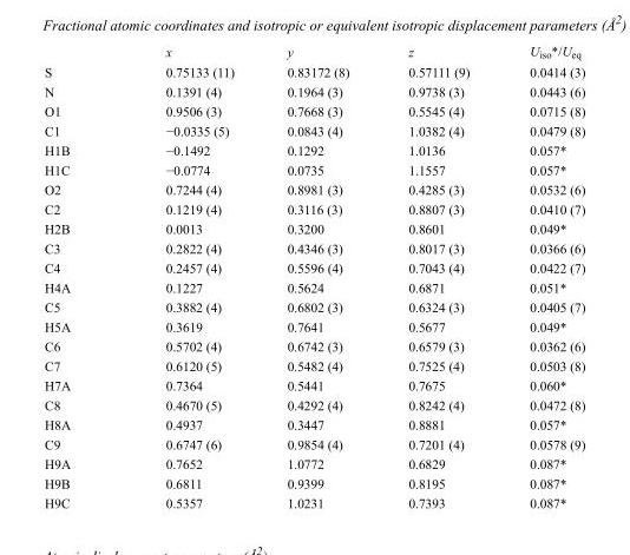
<table><thead><tr><td></td><td>x</td><td>y</td><td>z</td><td>U<sub>iso</sub>*/U<sub>eq</sub></td></tr></thead><tbody><tr><td>S</td><td>0.75133 (11)</td><td>0.83172 (8)</td><td>0.57111 (9)</td><td>0.0414 (3)</td></tr><tr><td>N</td><td>0.1391 (4)</td><td>0.1964 (3)</td><td>0.9738 (3)</td><td>0.0443 (6)</td></tr><tr><td>O1</td><td>0.9506 (3)</td><td>0.7668 (3)</td><td>0.5545 (4)</td><td>0.0715 (8)</td></tr><tr><td>C1</td><td>−0.0335 (5)</td><td>0.0843 (4)</td><td>1.0382 (4)</td><td>0.0479 (8)</td></tr><tr><td>H1B</td><td>−0.1492</td><td>0.1292</td><td>1.0136</td><td>0.057*</td></tr><tr><td>H1C</td><td>−0.0774</td><td>0.0735</td><td>1.1557</td><td>0.057*</td></tr><tr><td>O2</td><td>0.7244 (4)</td><td>0.8981 (3)</td><td>0.4285 (3)</td><td>0.0532 (6)</td></tr><tr><td>C2</td><td>0.1219 (4)</td><td>0.3116 (3)</td><td>0.8807 (3)</td><td>0.0410 (7)</td></tr><tr><td>H2B</td><td>0.0013</td><td>0.3200</td><td>0.8601</td><td>0.049*</td></tr><tr><td>C3</td><td>0.2822 (4)</td><td>0.4346 (3)</td><td>0.8017 (3)</td><td>0.0366 (6)</td></tr><tr><td>C4</td><td>0.2457 (4)</td><td>0.5596 (4)</td><td>0.7043 (4)</td><td>0.0422 (7)</td></tr><tr><td>H4A</td><td>0.1227</td><td>0.5624</td><td>0.6871</td><td>0.051*</td></tr><tr><td>C5</td><td>0.3882 (4)</td><td>0.6802 (3)</td><td>0.6324 (3)</td><td>0.0405 (7)</td></tr><tr><td>H5A</td><td>0.3619</td><td>0.7641</td><td>0.5677</td><td>0.049*</td></tr><tr><td>C6</td><td>0.5702 (4)</td><td>0.6742 (3)</td><td>0.6579 (3)</td><td>0.0362 (6)</td></tr><tr><td>C7</td><td>0.6120 (5)</td><td>0.5482 (4)</td><td>0.7525 (4)</td><td>0.0503 (8)</td></tr><tr><td>H7A</td><td>0.7364</td><td>0.5441</td><td>0.7675</td><td>0.060*</td></tr><tr><td>C8</td><td>0.4670 (5)</td><td>0.4292 (4)</td><td>0.8242 (4)</td><td>0.0472 (8)</td></tr><tr><td>H8A</td><td>0.4937</td><td>0.3447</td><td>0.8881</td><td>0.057*</td></tr><tr><td>C9</td><td>0.6747 (6)</td><td>0.9854 (4)</td><td>0.7201 (4)</td><td>0.0578 (9)</td></tr><tr><td>H9A</td><td>0.7652</td><td>1.0772</td><td>0.6829</td><td>0.087*</td></tr><tr><td>H9B</td><td>0.6811</td><td>0.9399</td><td>0.8195</td><td>0.087*</td></tr><tr><td>H9C</td><td>0.5357</td><td>1.0231</td><td>0.7393</td><td>0.087*</td></tr></tbody></table>